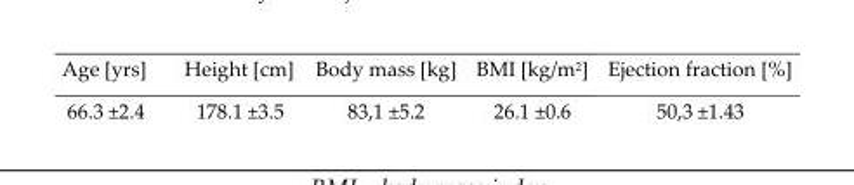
<table><thead><tr><td>Age [yrs]</td><td>Height [cm]</td><td>Body mass [kg]</td><td>BMI [kg/m<sup>2</sup>]</td><td>Ejection fraction [%]</td></tr></thead><tbody><tr><td>66.3 ±2.4</td><td>178.1 ±3.5</td><td>83,1 ±5.2</td><td>26.1 ±0.6</td><td>50,3 ±1.43</td></tr></tbody></table>